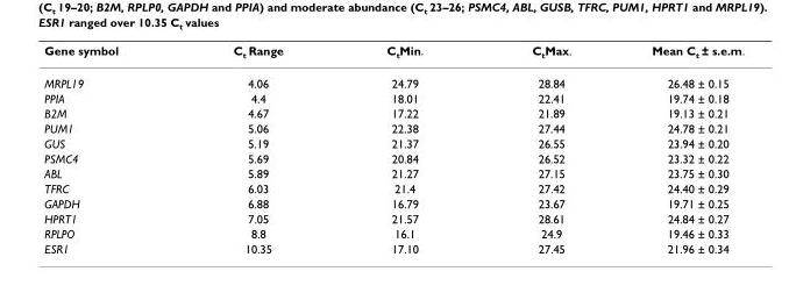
<table><thead><tr><td>Gene symbol</td><td>C<sub>t</sub> Range</td><td>C<sub>t</sub>Min.</td><td>C<sub>t</sub>Max.</td><td>Mean C<sub>t</sub> ± s.e.m.</td></tr></thead><tbody><tr><td>MRPL19</td><td>4.06</td><td>24.79</td><td>28.84</td><td>26.48 ± 0.15</td></tr><tr><td>PPIA</td><td>4.4</td><td>18.01</td><td>22.41</td><td>19.74 ± 0.18</td></tr><tr><td>B2M</td><td>4.67</td><td>17.22</td><td>21.89</td><td>19.13 ± 0.21</td></tr><tr><td>PUM1</td><td>5.06</td><td>22.38</td><td>27.44</td><td>24.78 ± 0.21</td></tr><tr><td>GUS</td><td>5.19</td><td>21.37</td><td>26.55</td><td>23.94 ± 0.20</td></tr><tr><td>PSMC4</td><td>5.69</td><td>20.84</td><td>26.52</td><td>23.32 ± 0.22</td></tr><tr><td>ABL</td><td>5.89</td><td>21.27</td><td>27.15</td><td>23.75 ± 0.30</td></tr><tr><td>TFRC</td><td>6.03</td><td>21.4</td><td>27.42</td><td>24.40 ± 0.29</td></tr><tr><td>GAPDH</td><td>6.88</td><td>16.79</td><td>23.67</td><td>19.71 ± 0.25</td></tr><tr><td>HPRT1</td><td>7.05</td><td>21.57</td><td>28.61</td><td>24.84 ± 0.27</td></tr><tr><td>RPLPO</td><td>8.8</td><td>16.1</td><td>24.9</td><td>19.46 ± 0.33</td></tr><tr><td>ESR1</td><td>10.35</td><td>17.10</td><td>27.45</td><td>21.96 ± 0.34</td></tr></tbody></table>